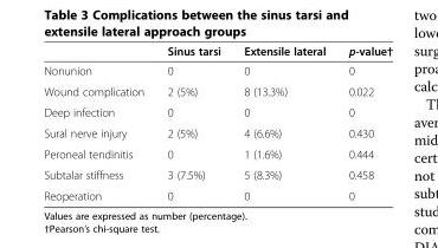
<table><thead><tr><td></td><td>Sinus tarsi</td><td>Extensile lateral</td><td>p-value†</td></tr></thead><tbody><tr><td>Nonunion</td><td>0</td><td>0</td><td>0</td></tr><tr><td>Wound complication</td><td>2 (5%)</td><td>8 (13.3%)</td><td>0.022</td></tr><tr><td>Deep infection</td><td>0</td><td>0</td><td>0</td></tr><tr><td>Sural nerve injury</td><td>2 (5%)</td><td>4 (6.6%)</td><td>0.430</td></tr><tr><td>Peroneal tendinitis</td><td>0</td><td>1 (1.6%)</td><td>0.444</td></tr><tr><td>Subtalar stiffness</td><td>3 (7.5%)</td><td>5 (8.3%)</td><td>0.458</td></tr><tr><td>Reoperation</td><td>0</td><td>0</td><td>0</td></tr></tbody></table>